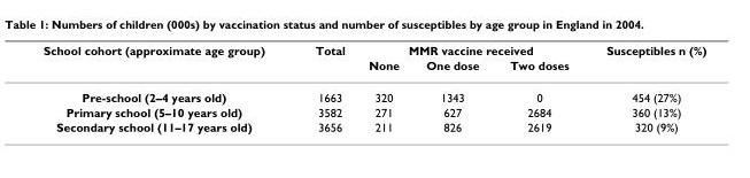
<table><thead><tr><td rowspan="2">School cohort (approximate age group)</td><td rowspan="2">Total</td><td colspan="3">MMR vaccine received</td><td rowspan="2">Susceptibles n (%)</td></tr><tr><td>None</td><td>One dose</td><td>Two doses</td></tr></thead><tbody><tr><td>Pre-school (2–4 years old)</td><td>1663</td><td>320</td><td>1343</td><td>0</td><td>454 (27%)</td></tr><tr><td>Primary school (5–10 years old)</td><td>3582</td><td>271</td><td>627</td><td>2684</td><td>360 (13%)</td></tr><tr><td>Secondary school (11–17 years old)</td><td>3656</td><td>211</td><td>826</td><td>2619</td><td>320 (9%)</td></tr></tbody></table>